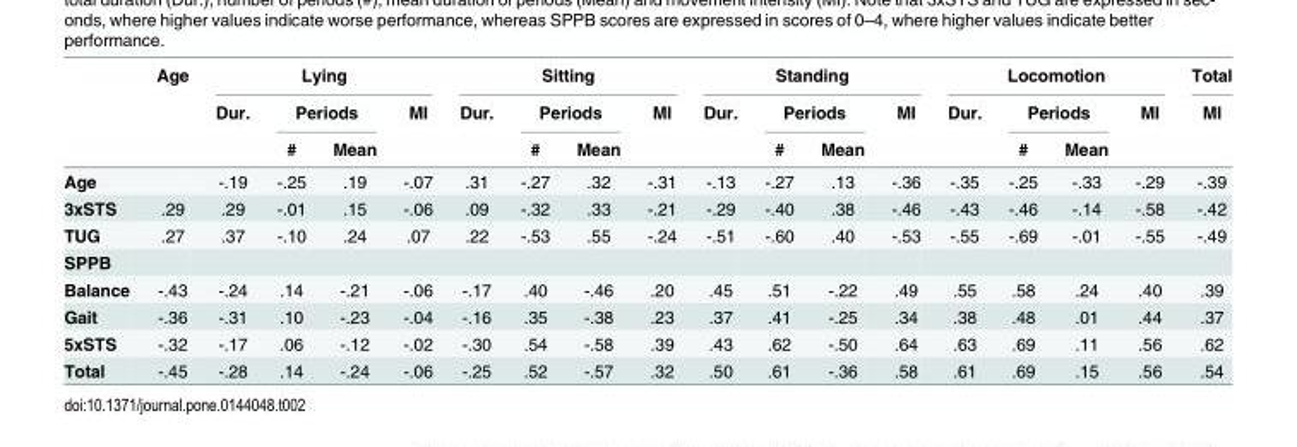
<table><thead><tr><td rowspan="3"></td><td rowspan="3">Age</td><td colspan="4">Lying</td><td colspan="4">Sitting</td><td colspan="4">Standing</td><td colspan="4">Locomotion</td><td rowspan="3">Total MI</td></tr><tr><td rowspan="2">Dur.</td><td colspan="2">Periods</td><td rowspan="2">MI</td><td rowspan="2">Dur.</td><td colspan="2">Periods</td><td rowspan="2">MI</td><td rowspan="2">Dur.</td><td colspan="2">Periods</td><td rowspan="2">MI</td><td rowspan="2">Dur.</td><td colspan="2">Periods</td><td rowspan="2">MI</td></tr><tr><td>#</td><td>Mean</td><td>#</td><td>Mean</td><td>#</td><td>Mean</td><td>#</td><td>Mean</td></tr></thead><tbody><tr><td>Age</td><td></td><td>-.19</td><td>-.25</td><td>.19</td><td>-.07</td><td>.31</td><td>-.27</td><td>.32</td><td>-.31</td><td>-.13</td><td>-.27</td><td>.13</td><td>-.36</td><td>-.35</td><td>-.25</td><td>-.33</td><td>-.29</td><td>-.39</td></tr><tr><td>3xSTS</td><td>.29</td><td>.29</td><td>-.01</td><td>.15</td><td>-.06</td><td>.09</td><td>-.32</td><td>.33</td><td>-.21</td><td>-.29</td><td>-.40</td><td>.38</td><td>-.46</td><td>-.43</td><td>-.46</td><td>-.14</td><td>-.58</td><td>-.42</td></tr><tr><td>TUG</td><td>.27</td><td>.37</td><td>-.10</td><td>.24</td><td>.07</td><td>.22</td><td>-.53</td><td>.55</td><td>-.24</td><td>-.51</td><td>-.60</td><td>.40</td><td>-.53</td><td>-.55</td><td>-.69</td><td>-.01</td><td>-.55</td><td>-.49</td></tr><tr><td colspan="19">SPPB</td></tr><tr><td>Balance</td><td>-.43</td><td>-.24</td><td>.14</td><td>-.21</td><td>-.06</td><td>-.17</td><td>.40</td><td>-.46</td><td>.20</td><td>.45</td><td>.51</td><td>-.22</td><td>.49</td><td>.55</td><td>.58</td><td>.24</td><td>.40</td><td>.39</td></tr><tr><td>Gait</td><td>-.36</td><td>-.31</td><td>.10</td><td>-.23</td><td>-.04</td><td>-.16</td><td>.35</td><td>-.38</td><td>.23</td><td>.37</td><td>.41</td><td>-.25</td><td>.34</td><td>.38</td><td>.48</td><td>.01</td><td>.44</td><td>.37</td></tr><tr><td>5xSTS</td><td>-.32</td><td>-.17</td><td>.06</td><td>-.12</td><td>-.02</td><td>-.30</td><td>.54</td><td>-.58</td><td>.39</td><td>.43</td><td>.62</td><td>-.50</td><td>.64</td><td>.63</td><td>.69</td><td>.11</td><td>.56</td><td>.62</td></tr><tr><td>Total</td><td>-.45</td><td>-.28</td><td>.14</td><td>-.24</td><td>-.06</td><td>-.25</td><td>.52</td><td>-.57</td><td>.32</td><td>.50</td><td>.61</td><td>-.36</td><td>.58</td><td>.61</td><td>.69</td><td>.15</td><td>.56</td><td>.54</td></tr></tbody></table>